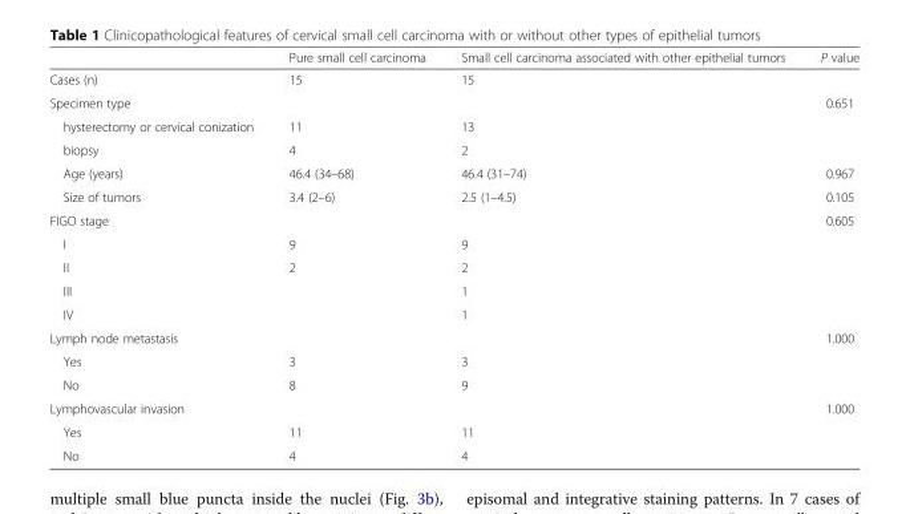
<table><thead><tr><td></td><td>Pure small cell carcinoma</td><td>Small cell carcinoma associated with other epithelial tumors</td><td>P value</td></tr></thead><tbody><tr><td>Cases (n)</td><td>15</td><td>15</td><td></td></tr><tr><td colspan="3">Specimen type</td><td>0.651</td></tr><tr><td>hysterectomy or cervical conization</td><td>11</td><td>13</td><td rowspan="2"></td></tr><tr><td>biopsy</td><td>4</td><td>2</td></tr><tr><td>Age (years)</td><td>46.4 (34–68)</td><td>46.4 (31–74)</td><td>0.967</td></tr><tr><td>Size of tumors</td><td>3.4 (2–6)</td><td>2.5 (1–4.5)</td><td>0.105</td></tr><tr><td colspan="3">FIGO stage</td><td>0.605</td></tr><tr><td>I</td><td>9</td><td>9</td><td rowspan="4"></td></tr><tr><td>II</td><td>2</td><td>2</td></tr><tr><td>III</td><td rowspan="2"></td><td>1</td></tr><tr><td>IV</td><td>1</td></tr><tr><td colspan="3">Lymph node metastasis</td><td>1.000</td></tr><tr><td>Yes</td><td>3</td><td>3</td><td rowspan="2"></td></tr><tr><td>No</td><td>8</td><td>9</td></tr><tr><td colspan="3">Lymphovascular invasion</td><td>1.000</td></tr><tr><td>Yes</td><td>11</td><td>11</td><td rowspan="2"></td></tr><tr><td>No</td><td>4</td><td>4</td></tr></tbody></table>